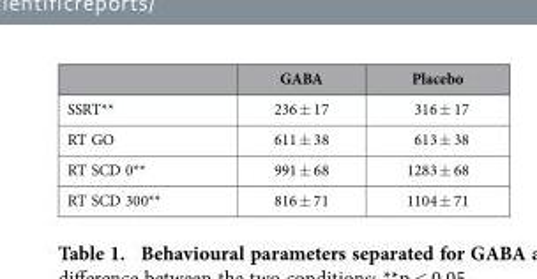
<table><thead><tr><td></td><td>GABA</td><td>Placebo</td></tr></thead><tbody><tr><td>SSRT**</td><td>236 ± 17</td><td>316 ± 17</td></tr><tr><td>RT GO</td><td>611 ± 38</td><td>613 ± 38</td></tr><tr><td>RT SCD 0**</td><td>991 ± 68</td><td>1283 ± 68</td></tr><tr><td>RT SCD 300**</td><td>816 ± 71</td><td>1104 ± 71</td></tr></tbody></table>